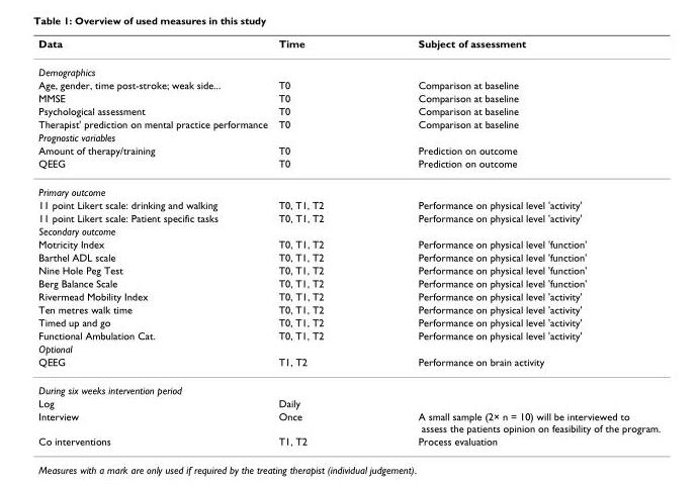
<table><thead><tr><td>Data</td><td>Time</td><td>Subject of assessment</td></tr></thead><tbody><tr><td colspan="3">Demographics</td></tr><tr><td>Age, gender, time post-stroke; weak side...</td><td>T0</td><td>Comparison at baseline</td></tr><tr><td>MMSE</td><td>T0</td><td>Comparison at baseline</td></tr><tr><td>Psychological assessment</td><td>T0</td><td>Comparison at baseline</td></tr><tr><td>Therapist&#x27; prediction on mental practice performance</td><td>T0</td><td>Comparison at baseline</td></tr><tr><td colspan="3">Prognostic variables</td></tr><tr><td>Amount of therapy/training</td><td>T0</td><td>Prediction on outcome</td></tr><tr><td>QEEG</td><td>T0</td><td>Prediction on outcome</td></tr><tr><td colspan="3">Primary outcome</td></tr><tr><td>11 point Likert scale: drinking and walking</td><td>T0, T1, T2</td><td>Performance on physical level &#x27;activity&#x27;</td></tr><tr><td>11 point Likert scale: Patient specific tasks</td><td>T0, T1, T2</td><td>Performance on physical level &#x27;activity&#x27;</td></tr><tr><td colspan="3">Secondary outcome</td></tr><tr><td>Motricity Index</td><td>T0, T1, T2</td><td>Performance on physical level &#x27;function&#x27;</td></tr><tr><td>Barthel ADL scale</td><td>T0, T1, T2</td><td>Performance on physical level &#x27;function&#x27;</td></tr><tr><td>Nine Hole Peg Test</td><td>T0, T1, T2</td><td>Performance on physical level &#x27;function&#x27;</td></tr><tr><td>Berg Balance Scale</td><td>T0, T1, T2</td><td>Performance on physical level &#x27;function&#x27;</td></tr><tr><td>Rivermead Mobility Index</td><td>T0, T1, T2</td><td>Performance on physical level &#x27;activity&#x27;</td></tr><tr><td>Ten metres walk time</td><td>T0, T1, T2</td><td>Performance on physical level &#x27;activity&#x27;</td></tr><tr><td>Timed up and go</td><td>T0, T1, T2</td><td>Performance on physical level &#x27;activity&#x27;</td></tr><tr><td>Functional Ambulation Cat.</td><td>T0, T1, T2</td><td>Performance on physical level &#x27;activity&#x27;</td></tr><tr><td colspan="3">Optional</td></tr><tr><td>QEEG</td><td>T1, T2</td><td>Performance on brain activity</td></tr><tr><td colspan="3">During six weeks intervention period</td></tr><tr><td>Log</td><td>Daily</td><td></td></tr><tr><td>Interview</td><td>Once</td><td>A small sample (2× n = 10) will be interviewed to assess the patients opinion on feasibility of the program.</td></tr><tr><td>Co interventions</td><td>T1, T2</td><td>Process evaluation</td></tr></tbody></table>